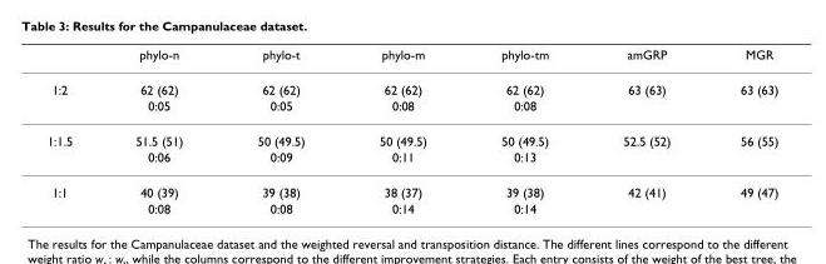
<table><thead><tr><td></td><td>phylo-n</td><td>phylo-t</td><td>phylo-m</td><td>phylo-tm</td><td>amGRP</td><td>MGR</td></tr></thead><tbody><tr><td rowspan="2">1:2</td><td>62 (62)</td><td>62 (62)</td><td>62 (62)</td><td>62 (62)</td><td>63 (63)</td><td>63 (63)</td></tr><tr><td>0:05</td><td>0:05</td><td>0:08</td><td>0:08</td><td></td><td></td></tr><tr><td rowspan="2">1:1.5</td><td>51.5 (51)</td><td>50 (49.5)</td><td>50 (49.5)</td><td>50 (49.5)</td><td>52.5 (52)</td><td>56 (55)</td></tr><tr><td>0:06</td><td>0:09</td><td>0:11</td><td>0:13</td><td></td><td></td></tr><tr><td rowspan="2">1:1</td><td>40 (39)</td><td>39 (38)</td><td>38 (37)</td><td>39 (38)</td><td>42 (41)</td><td>49 (47)</td></tr><tr><td>0:08</td><td>0:08</td><td>0:14</td><td>0:14</td><td></td><td></td></tr></tbody></table>